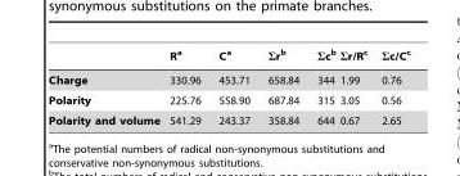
<table><thead><tr><td></td><td>R<sup>a</sup></td><td>C<sup>a</sup></td><td>Σr<sup>b</sup></td><td>Σc<sup>b</sup></td><td>Σr/R<sup>c</sup></td><td>Σc/C<sup>c</sup></td></tr></thead><tbody><tr><td>Charge</td><td>330.96</td><td>453.71</td><td>658.84</td><td>344</td><td>1.99</td><td>0.76</td></tr><tr><td>Polarity</td><td>225.76</td><td>558.90</td><td>687.84</td><td>315</td><td>3.05</td><td>0.56</td></tr><tr><td>Polarity and volume</td><td>541.29</td><td>243.37</td><td>358.84</td><td>644</td><td>0.67</td><td>2.65</td></tr></tbody></table>